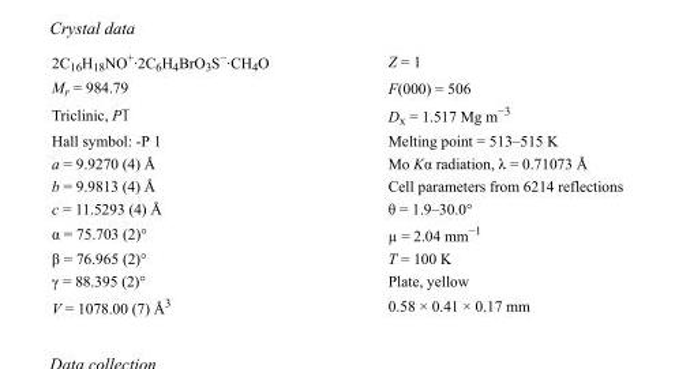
<table><tbody><tr><td>2C<sub>16</sub>H<sub>18</sub>NO<sup>+</sup>·2C<sub>6</sub>H<sub>4</sub>BrO<sub>3</sub>S<sup>−</sup>·CH<sub>4</sub>O</td><td>Z = 1</td></tr><tr><td>M<sub>r</sub> = 984.79</td><td>F(000) = 506</td></tr><tr><td>Triclinic, P1</td><td>D<sub>x</sub> = 1.517 Mg m<sup>−3</sup></td></tr><tr><td>Hall symbol: -P 1</td><td>Melting point = 513–515 K</td></tr><tr><td>a = 9.9270 (4) Å</td><td>Mo Kα radiation, λ = 0.71073 Å</td></tr><tr><td>b = 9.9813 (4) Å</td><td>Cell parameters from 6214 reflections</td></tr><tr><td>c = 11.5293 (4) Å</td><td>θ = 1.9–30.0°</td></tr><tr><td>α = 75.703 (2)°</td><td>µ = 2.04 mm<sup>−1</sup></td></tr><tr><td>β = 76.965 (2)°</td><td>T = 100 K</td></tr><tr><td>γ = 88.395 (2)°</td><td>Plate, yellow</td></tr><tr><td>V = 1078.00 (7) Å<sup>3</sup></td><td>0.58 × 0.41 × 0.17 mm</td></tr></tbody></table>